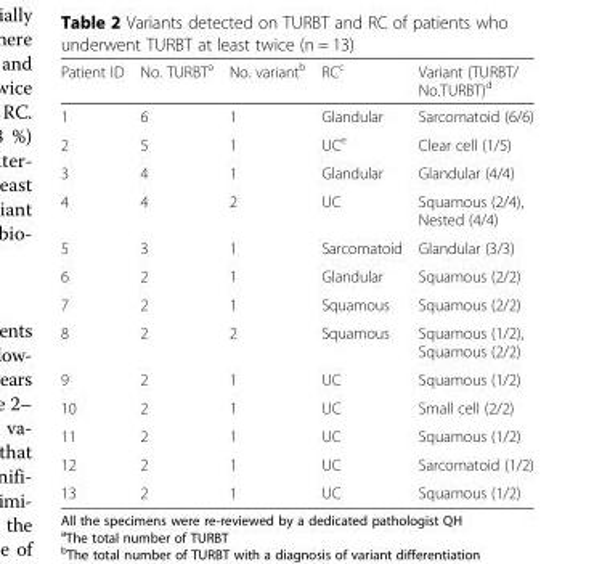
<table><thead><tr><td>Patient ID</td><td>No. TURBT<sup>a</sup></td><td>No. variant<sup>b</sup></td><td>RC<sup>c</sup></td><td>Variant (TURBT/ No.TURBT)<sup>d</sup></td></tr></thead><tbody><tr><td>1</td><td>6</td><td>1</td><td>Glandular</td><td>Sarcomatoid (6/6)</td></tr><tr><td>2</td><td>5</td><td>1</td><td>UC<sup>e</sup></td><td>Clear cell (1/5)</td></tr><tr><td>3</td><td>4</td><td>1</td><td>Glandular</td><td>Glandular (4/4)</td></tr><tr><td>4</td><td>4</td><td>2</td><td>UC</td><td>Squamous (2/4), Nested (4/4)</td></tr><tr><td>5</td><td>3</td><td>1</td><td>Sarcomatoid</td><td>Glandular (3/3)</td></tr><tr><td>6</td><td>2</td><td>1</td><td>Glandular</td><td>Squamous (2/2)</td></tr><tr><td>7</td><td>2</td><td>1</td><td>Squamous</td><td>Squamous (2/2)</td></tr><tr><td>8</td><td>2</td><td>2</td><td>Squamous</td><td>Squamous (1/2), Squamous (2/2)</td></tr><tr><td>9</td><td>2</td><td>1</td><td>UC</td><td>Squamous (1/2)</td></tr><tr><td>10</td><td>2</td><td>1</td><td>UC</td><td>Small cell (2/2)</td></tr><tr><td>11</td><td>2</td><td>1</td><td>UC</td><td>Squamous (1/2)</td></tr><tr><td>12</td><td>2</td><td>1</td><td>UC</td><td>Sarcomatoid (1/2)</td></tr><tr><td>13</td><td>2</td><td>1</td><td>UC</td><td>Squamous (1/2)</td></tr></tbody></table>